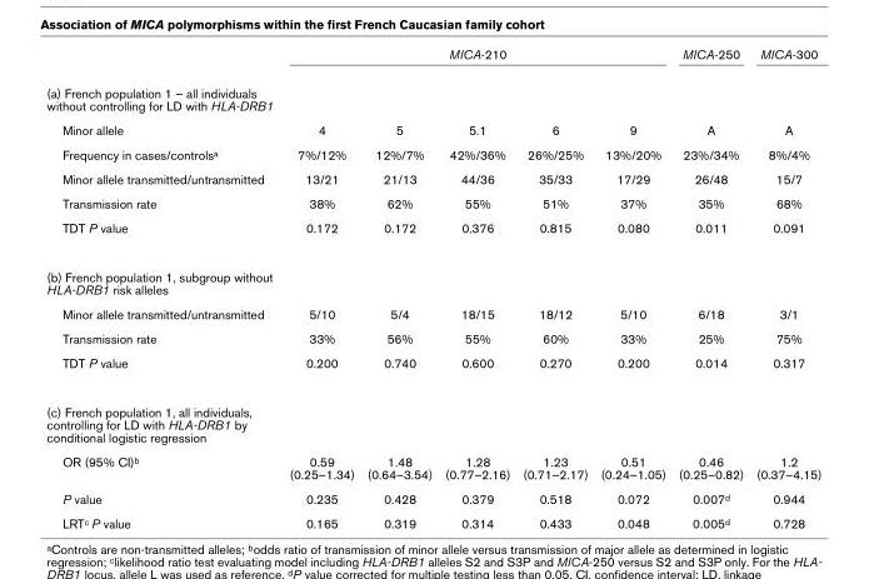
<table><thead><tr><td rowspan="2">(a) French population 1 – all individuals without controlling for LD with HLA-DRB1</td><td colspan="5">MICA-210</td><td rowspan="2">MICA-250</td><td rowspan="2">MICA-300</td></tr><tr><td></td><td></td><td></td><td></td><td></td></tr></thead><tbody><tr><td>Minor allele</td><td>4</td><td>5</td><td>5.1</td><td>6</td><td>9</td><td>A</td><td>A</td></tr><tr><td>Frequency in cases/controls<sup>a</sup></td><td>7%/12%</td><td>12%/7%</td><td>42%/36%</td><td>26%/25%</td><td>13%/20%</td><td>23%/34%</td><td>8%/4%</td></tr><tr><td>Minor allele transmitted/untransmitted</td><td>13/21</td><td>21/13</td><td>44/36</td><td>35/33</td><td>17/29</td><td>26/48</td><td>15/7</td></tr><tr><td>Transmission rate</td><td>38%</td><td>62%</td><td>55%</td><td>51%</td><td>37%</td><td>35%</td><td>68%</td></tr><tr><td>TDT P value</td><td>0.172</td><td>0.172</td><td>0.376</td><td>0.815</td><td>0.080</td><td>0.011</td><td>0.091</td></tr><tr><td colspan="8">(b) French population 1, subgroup without HLA-DRB1 risk alleles</td></tr><tr><td>Minor allele transmitted/untransmitted</td><td>5/10</td><td>5/4</td><td>18/15</td><td>18/12</td><td>5/10</td><td>6/18</td><td>3/1</td></tr><tr><td>Transmission rate</td><td>33%</td><td>56%</td><td>55%</td><td>60%</td><td>33%</td><td>25%</td><td>75%</td></tr><tr><td>TDT P value</td><td>0.200</td><td>0.740</td><td>0.600</td><td>0.270</td><td>0.200</td><td>0.014</td><td>0.317</td></tr><tr><td colspan="8">(c) French population 1, all individuals, controlling for LD with HLA-DRB1 by conditional logistic regression</td></tr><tr><td>OR (95% CI)<sup>b</sup></td><td>0.59 (0.25–1.34)</td><td>1.48 (0.64–3.54)</td><td>1.28 (0.77–2.16)</td><td>1.23 (0.71–2.17)</td><td>0.51 (0.24–1.05)</td><td>0.46 (0.25–0.82)</td><td>1.2 (0.37–4.15)</td></tr><tr><td>P value</td><td>0.235</td><td>0.428</td><td>0.379</td><td>0.518</td><td>0.072</td><td>0.007<sup>d</sup></td><td>0.944</td></tr><tr><td>LRT<sup>c</sup> P value</td><td>0.165</td><td>0.319</td><td>0.314</td><td>0.433</td><td>0.048</td><td>0.005<sup>d</sup></td><td>0.728</td></tr></tbody></table>